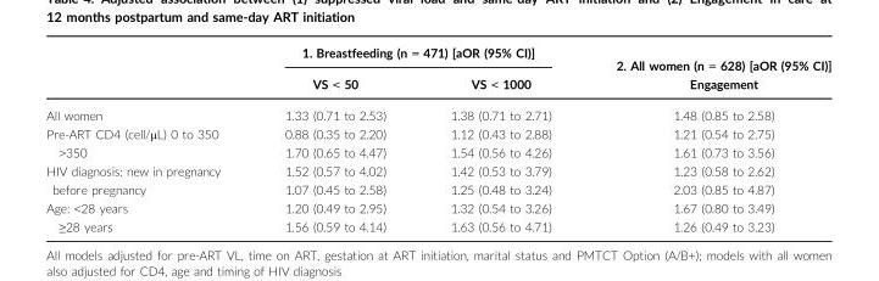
<table><thead><tr><td rowspan="2"></td><td colspan="2">1. Breastfeeding (n = 471) [aOR (95% CI)]</td><td rowspan="2">2. All women (n = 628) [aOR (95% CI)] Engagement</td></tr><tr><td>VS &lt; 50</td><td>VS &lt; 1000</td></tr></thead><tbody><tr><td>All women</td><td>1.33 (0.71 to 2.53)</td><td>1.38 (0.71 to 2.71)</td><td>1.48 (0.85 to 2.58)</td></tr><tr><td>Pre-ART CD4 (cell/μL) 0 to 350</td><td>0.88 (0.35 to 2.20)</td><td>1.12 (0.43 to 2.88)</td><td>1.21 (0.54 to 2.75)</td></tr><tr><td>&gt;350</td><td>1.70 (0.65 to 4.47)</td><td>1.54 (0.56 to 4.26)</td><td>1.61 (0.73 to 3.56)</td></tr><tr><td>HIV diagnosis: new in pregnancy</td><td>1.52 (0.57 to 4.02)</td><td>1.42 (0.53 to 3.79)</td><td>1.23 (0.58 to 2.62)</td></tr><tr><td>before pregnancy</td><td>1.07 (0.45 to 2.58)</td><td>1.25 (0.48 to 3.24)</td><td>2.03 (0.85 to 4.87)</td></tr><tr><td>Age: &lt;28 years</td><td>1.20 (0.49 to 2.95)</td><td>1.32 (0.54 to 3.26)</td><td>1.67 (0.80 to 3.49)</td></tr><tr><td>≥28 years</td><td>1.56 (0.59 to 4.14)</td><td>1.63 (0.56 to 4.71)</td><td>1.26 (0.49 to 3.23)</td></tr></tbody></table>